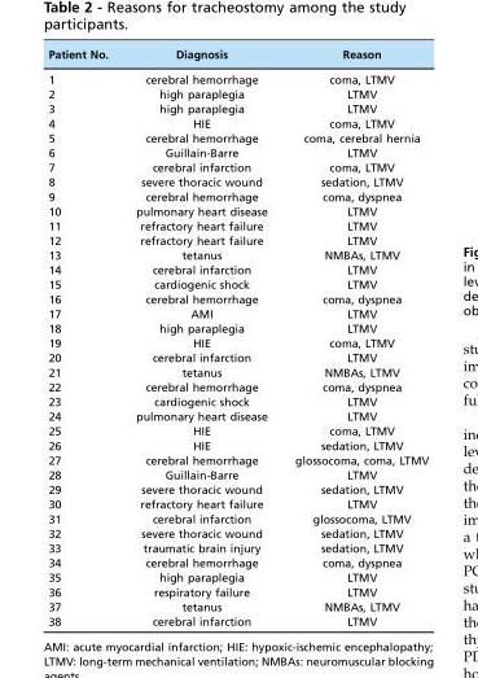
<table><thead><tr><td>Patient No.</td><td>Diagnosis</td><td>Reason</td></tr></thead><tbody><tr><td>1</td><td>cerebral hemorrhage</td><td>coma, LTMV</td></tr><tr><td>2</td><td>high paraplegia</td><td>LTMV</td></tr><tr><td>3</td><td>high paraplegia</td><td>LTMV</td></tr><tr><td>4</td><td>HIE</td><td>coma, LTMV</td></tr><tr><td>5</td><td>cerebral hemorrhage</td><td>coma, cerebral hernia</td></tr><tr><td>6</td><td>Guillain-Barre</td><td>LTMV</td></tr><tr><td>7</td><td>cerebral infarction</td><td>coma, LTMV</td></tr><tr><td>8</td><td>severe thoracic wound</td><td>sedation, LTMV</td></tr><tr><td>9</td><td>cerebral hemorrhage</td><td>coma, dyspnea</td></tr><tr><td>10</td><td>pulmonary heart disease</td><td>LTMV</td></tr><tr><td>11</td><td>refractory heart failure</td><td>LTMV</td></tr><tr><td>12</td><td>refractory heart failure</td><td>LTMV</td></tr><tr><td>13</td><td>tetanus</td><td>NMBAs, LTMV</td></tr><tr><td>14</td><td>cerebral infarction</td><td>LTMV</td></tr><tr><td>15</td><td>cardiogenic shock</td><td>LTMV</td></tr><tr><td>16</td><td>cerebral hemorrhage</td><td>coma, dyspnea</td></tr><tr><td>17</td><td>AMI</td><td>LTMV</td></tr><tr><td>18</td><td>high paraplegia</td><td>LTMV</td></tr><tr><td>19</td><td>HIE</td><td>coma, LTMV</td></tr><tr><td>20</td><td>cerebral infarction</td><td>LTMV</td></tr><tr><td>21</td><td>tetanus</td><td>NMBAs, LTMV</td></tr><tr><td>22</td><td>cerebral hemorrhage</td><td>coma, dyspnea</td></tr><tr><td>23</td><td>cardiogenic shock</td><td>LTMV</td></tr><tr><td>24</td><td>pulmonary heart disease</td><td>LTMV</td></tr><tr><td>25</td><td>HIE</td><td>coma, LTMV</td></tr><tr><td>26</td><td>HIE</td><td>sedation, LTMV</td></tr><tr><td>27</td><td>cerebral hemorrhage</td><td>glossocoma, coma, LTMV</td></tr><tr><td>28</td><td>Guillain-Barre</td><td>LTMV</td></tr><tr><td>29</td><td>severe thoracic wound</td><td>sedation, LTMV</td></tr><tr><td>30</td><td>refractory heart failure</td><td>LTMV</td></tr><tr><td>31</td><td>cerebral infarction</td><td>glossocoma, LTMV</td></tr><tr><td>32</td><td>severe thoracic wound</td><td>sedation, LTMV</td></tr><tr><td>33</td><td>traumatic brain injury</td><td>sedation, LTMV</td></tr><tr><td>34</td><td>cerebral hemorrhage</td><td>coma, dyspnea</td></tr><tr><td>35</td><td>high paraplegia</td><td>LTMV</td></tr><tr><td>36</td><td>respiratory failure</td><td>LTMV</td></tr><tr><td>37</td><td>tetanus</td><td>NMBAs, LTMV</td></tr><tr><td>38</td><td>cerebral infarction</td><td>LTMV</td></tr></tbody></table>